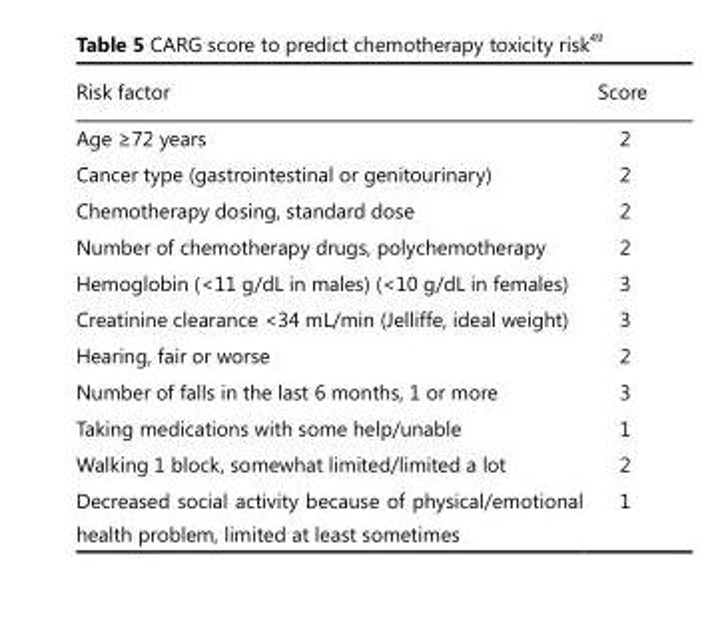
<table><thead><tr><td>Risk factor</td><td>Score</td></tr></thead><tbody><tr><td>Age ≥72 years</td><td>2</td></tr><tr><td>Cancer type (gastrointestinal or genitourinary)</td><td>2</td></tr><tr><td>Chemotherapy dosing, standard dose</td><td>2</td></tr><tr><td>Number of chemotherapy drugs, polychemotherapy</td><td>2</td></tr><tr><td>Hemoglobin (&lt;11 g/dL in males) (&lt;10 g/dL in females)</td><td>3</td></tr><tr><td>Creatinine clearance &lt;34 mL/min (Jelliffe, ideal weight)</td><td>3</td></tr><tr><td>Hearing, fair or worse</td><td>2</td></tr><tr><td>Number of falls in the last 6 months, 1 or more</td><td>3</td></tr><tr><td>Taking medications with some help/unable</td><td>1</td></tr><tr><td>Walking 1 block, somewhat limited/limited a lot</td><td>2</td></tr><tr><td>Decreased social activity because of physical/emotional health problem, limited at least sometimes</td><td>1</td></tr></tbody></table>